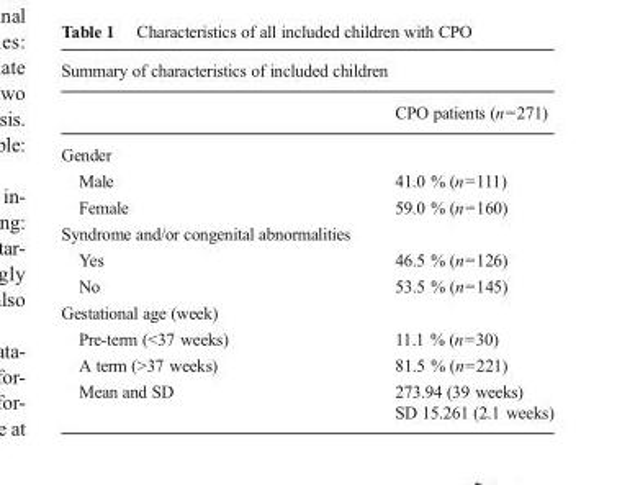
<table><thead><tr><td colspan="2">Summary of characteristics of included children</td></tr><tr><td></td><td>CPO patients (n=271)</td></tr></thead><tbody><tr><td colspan="2">Gender</td></tr><tr><td>Male</td><td>41.0 % (n=111)</td></tr><tr><td>Female</td><td>59.0 % (n=160)</td></tr><tr><td colspan="2">Syndrome and/or congenital abnormalities</td></tr><tr><td>Yes</td><td>46.5 % (n=126)</td></tr><tr><td>No</td><td>53.5 % (n=145)</td></tr><tr><td colspan="2">Gestational age (week)</td></tr><tr><td>Pre-term (&lt;37 weeks)</td><td>11.1 % (n=30)</td></tr><tr><td>A term (&gt;37 weeks)</td><td>81.5 % (n=221)</td></tr><tr><td>Mean and SD</td><td>273.94 (39 weeks) SD 15.261 (2.1 weeks)</td></tr></tbody></table>